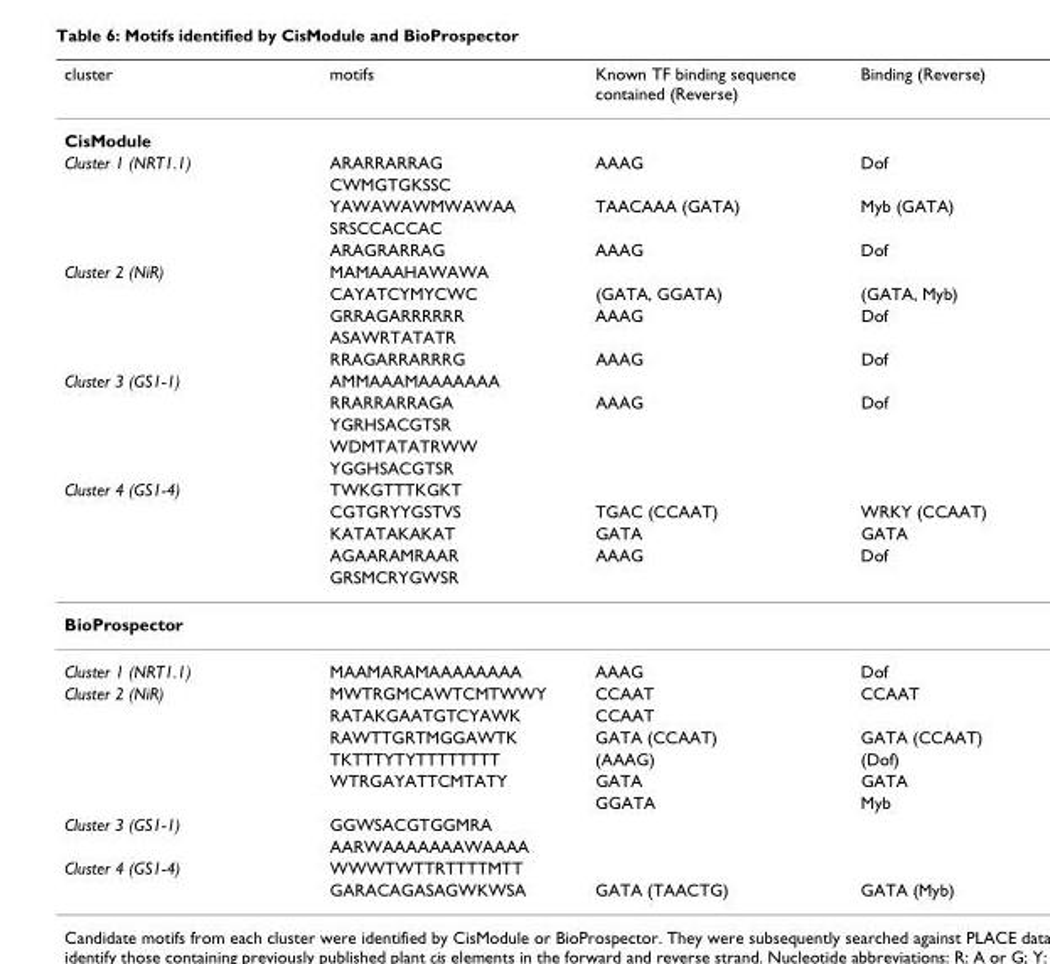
<table><thead><tr><td>cluster</td><td>motifs</td><td>Known TF binding sequence contained (Reverse)</td><td>Binding (Reverse)</td></tr></thead><tbody><tr><td colspan="4">CisModule</td></tr><tr><td rowspan="5">Cluster 1 (NRT1.1)</td><td>ARARRARRAG</td><td>AAAG</td><td>Dof</td></tr><tr><td>CWMGTGKSSC</td><td></td><td></td></tr><tr><td>YAWAWAWMWAWAA</td><td>TAACAAA (GATA)</td><td>Myb (GATA)</td></tr><tr><td>SRSCCACCAC</td><td></td><td></td></tr><tr><td>ARAGRARRAG</td><td>AAAG</td><td>Dof</td></tr><tr><td rowspan="5">Cluster 2 (NiR)</td><td>MAMAAAHAWAWA</td><td></td><td></td></tr><tr><td>CAYATCYMYCWC</td><td>(GATA, GGATA)</td><td>(GATA, Myb)</td></tr><tr><td>GRRAGARRRRRR</td><td>AAAG</td><td>Dof</td></tr><tr><td>ASAWRTATATR</td><td></td><td></td></tr><tr><td>RRAGARRARRRG</td><td>AAAG</td><td>Dof</td></tr><tr><td rowspan="5">Cluster 3 (GS1-1)</td><td>AMMAAAMAAAAAAA</td><td></td><td></td></tr><tr><td>RRARRARRAGA</td><td>AAAG</td><td>Dof</td></tr><tr><td>YGRHSACGTSR</td><td></td><td></td></tr><tr><td>WDMTATATRWW</td><td></td><td></td></tr><tr><td>YGGHSACGTSR</td><td></td><td></td></tr><tr><td rowspan="5">Cluster 4 (GS1-4)</td><td>TWKGTTTKGKT</td><td></td><td></td></tr><tr><td>CGTGRYYGSTVS</td><td>TGAC (CCAAT)</td><td>WRKY (CCAAT)</td></tr><tr><td>KATATAKAKAT</td><td>GATA</td><td>GATA</td></tr><tr><td>AGAARAMRAAR</td><td>AAAG</td><td>Dof</td></tr><tr><td>GRSMCRYGWSR</td><td></td><td></td></tr><tr><td colspan="4">BioProspector</td></tr><tr><td>Cluster 1 (NRT1.1)</td><td>MAAMARAMAAAAAAAA</td><td>AAAG</td><td>Dof</td></tr><tr><td rowspan="6">Cluster 2 (NiR)</td><td>MWTRGMCAWTCMTWWY</td><td>CCAAT</td><td>CCAAT</td></tr><tr><td>RATAKGAATGTCYAWK</td><td>CCAAT</td><td></td></tr><tr><td>RAWTTGRTMGGAWTK</td><td>GATA (CCAAT)</td><td>GATA (CCAAT)</td></tr><tr><td>TKTTTYTYTTTTTTTT</td><td>(AAAG)</td><td>(Dof)</td></tr><tr><td>WTRGAYATTCMTATY</td><td>GATA</td><td>GATA</td></tr><tr><td></td><td>GGATA</td><td>Myb</td></tr><tr><td rowspan="2">Cluster 3 (GS1-1)</td><td>GGWSACGTGGMRA</td><td></td><td></td></tr><tr><td>AARWAAAAAAAWAAAA</td><td></td><td></td></tr><tr><td rowspan="2">Cluster 4 (GS1-4)</td><td>WWWTWTTRTTTTMTT</td><td></td><td></td></tr><tr><td>GARACAGASAGWKWSA</td><td>GATA (TAACTG)</td><td>GATA (Myb)</td></tr></tbody></table>